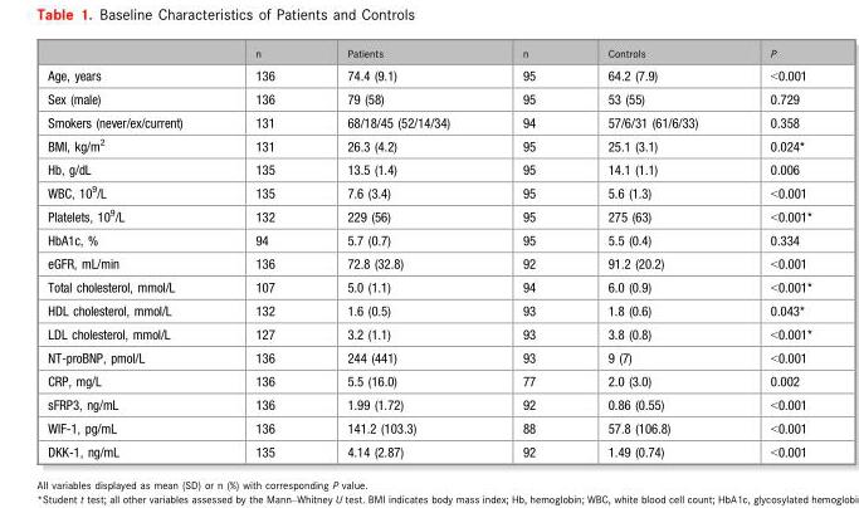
<table><thead><tr><td></td><td>n</td><td>Patients</td><td>n</td><td>Controls</td><td>P</td></tr></thead><tbody><tr><td>Age, years</td><td>136</td><td>74.4 (9.1)</td><td>95</td><td>64.2 (7.9)</td><td>&lt;0.001</td></tr><tr><td>Sex (male)</td><td>136</td><td>79 (58)</td><td>95</td><td>53 (55)</td><td>0.729</td></tr><tr><td>Smokers (never/ex/current)</td><td>131</td><td>68/18/45 (52/14/34)</td><td>94</td><td>57/6/31 (61/6/33)</td><td>0.358</td></tr><tr><td>BMI, kg/m<sup>2</sup></td><td>131</td><td>26.3 (4.2)</td><td>95</td><td>25.1 (3.1)</td><td>0.024*</td></tr><tr><td>Hb, g/dL</td><td>135</td><td>13.5 (1.4)</td><td>95</td><td>14.1 (1.1)</td><td>0.006</td></tr><tr><td>WBC, 10<sup>9</sup>/L</td><td>135</td><td>7.6 (3.4)</td><td>95</td><td>5.6 (1.3)</td><td>&lt;0.001</td></tr><tr><td>Platelets, 10<sup>9</sup>/L</td><td>132</td><td>229 (56)</td><td>95</td><td>275 (63)</td><td>&lt;0.001*</td></tr><tr><td>HbA1c, %</td><td>94</td><td>5.7 (0.7)</td><td>95</td><td>5.5 (0.4)</td><td>0.334</td></tr><tr><td>eGFR, mL/min</td><td>136</td><td>72.8 (32.8)</td><td>92</td><td>91.2 (20.2)</td><td>&lt;0.001</td></tr><tr><td>Total cholesterol, mmol/L</td><td>107</td><td>5.0 (1.1)</td><td>94</td><td>6.0 (0.9)</td><td>&lt;0.001*</td></tr><tr><td>HDL cholesterol, mmol/L</td><td>132</td><td>1.6 (0.5)</td><td>93</td><td>1.8 (0.6)</td><td>0.043*</td></tr><tr><td>LDL cholesterol, mmol/L</td><td>127</td><td>3.2 (1.1)</td><td>93</td><td>3.8 (0.8)</td><td>&lt;0.001*</td></tr><tr><td>NT-proBNP, pmol/L</td><td>136</td><td>244 (441)</td><td>93</td><td>9 (7)</td><td>&lt;0.001</td></tr><tr><td>CRP, mg/L</td><td>136</td><td>5.5 (16.0)</td><td>77</td><td>2.0 (3.0)</td><td>0.002</td></tr><tr><td>sFRP3, ng/mL</td><td>136</td><td>1.99 (1.72)</td><td>92</td><td>0.86 (0.55)</td><td>&lt;0.001</td></tr><tr><td>WIF-1, pg/mL</td><td>136</td><td>141.2 (103.3)</td><td>88</td><td>57.8 (106.8)</td><td>&lt;0.001</td></tr><tr><td>DKK-1, ng/mL</td><td>135</td><td>4.14 (2.87)</td><td>92</td><td>1.49 (0.74)</td><td>&lt;0.001</td></tr></tbody></table>